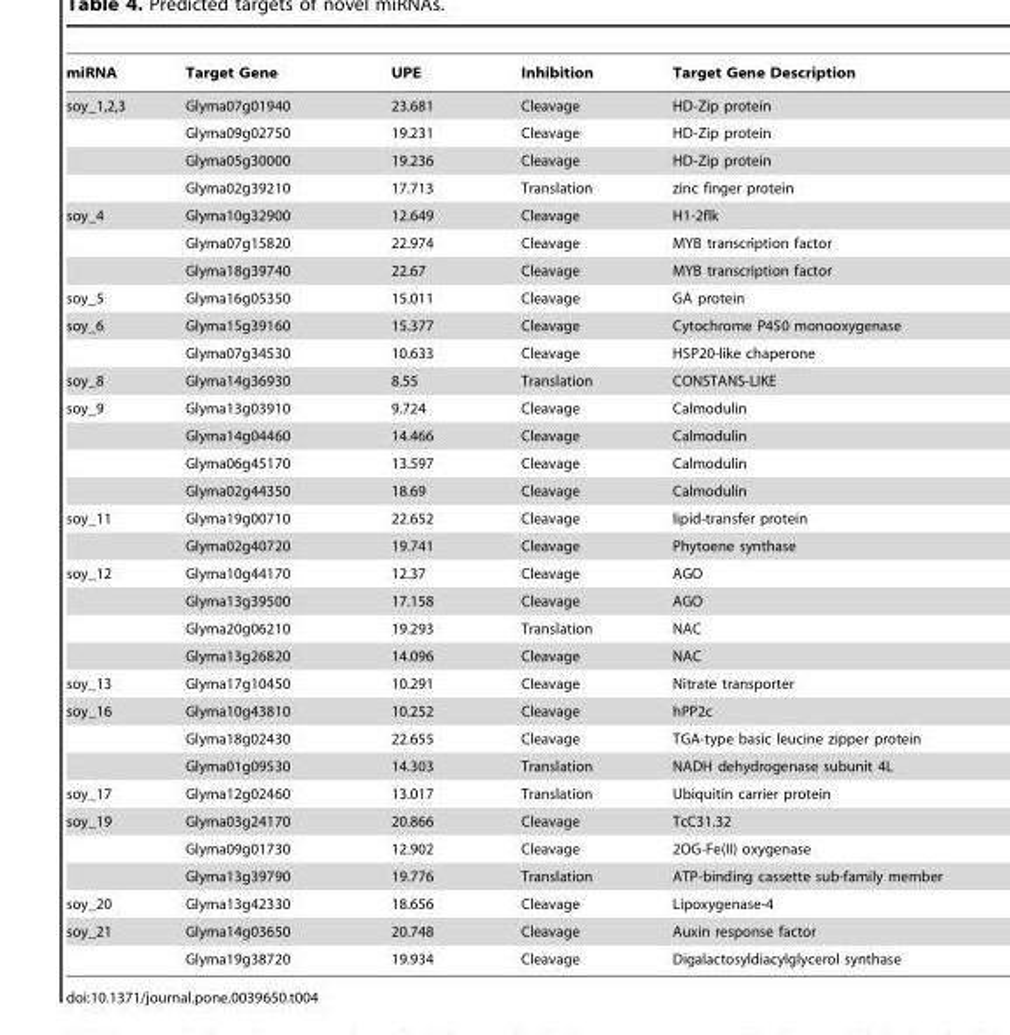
<table><thead><tr><td>miRNA</td><td>Target Gene</td><td>UPE</td><td>Inhibition</td><td>Target Gene Description</td></tr></thead><tbody><tr><td rowspan="4">soy_1,2,3</td><td>Glyma07g01940</td><td>23.681</td><td>Cleavage</td><td>HD-Zip protein</td></tr><tr><td>Glyma09g02750</td><td>19.231</td><td>Cleavage</td><td>HD-Zip protein</td></tr><tr><td>Glyma05g30000</td><td>19.236</td><td>Cleavage</td><td>HD-Zip protein</td></tr><tr><td>Glyma02g39210</td><td>17.713</td><td>Translation</td><td>zinc finger protein</td></tr><tr><td rowspan="3">soy_4</td><td>Glyma10g32900</td><td>12.649</td><td>Cleavage</td><td>H1-2flk</td></tr><tr><td>Glyma07g15820</td><td>22.974</td><td>Cleavage</td><td>MYB transcription factor</td></tr><tr><td>Glyma18g39740</td><td>22.67</td><td>Cleavage</td><td>MYB transcription factor</td></tr><tr><td>soy_5</td><td>Glyma16g05350</td><td>15.011</td><td>Cleavage</td><td>GA protein</td></tr><tr><td rowspan="2">soy_6</td><td>Glyma15g39160</td><td>15.377</td><td>Cleavage</td><td>Cytochrome P450 monooxygenase</td></tr><tr><td>Glyma07g34530</td><td>10.633</td><td>Cleavage</td><td>HSP20-like chaperone</td></tr><tr><td>soy_8</td><td>Glyma14g36930</td><td>8.55</td><td>Translation</td><td>CONSTANS-LIKE</td></tr><tr><td rowspan="4">soy_9</td><td>Glyma13g03910</td><td>9.724</td><td>Cleavage</td><td>Calmodulin</td></tr><tr><td>Glyma14g04460</td><td>14.466</td><td>Cleavage</td><td>Calmodulin</td></tr><tr><td>Glyma06g45170</td><td>13.597</td><td>Cleavage</td><td>Calmodulin</td></tr><tr><td>Glyma02g44350</td><td>18.69</td><td>Cleavage</td><td>Calmodulin</td></tr><tr><td rowspan="2">soy_11</td><td>Glyma19g00710</td><td>22.652</td><td>Cleavage</td><td>lipid-transfer protein</td></tr><tr><td>Glyma02g40720</td><td>19.741</td><td>Cleavage</td><td>Phytoene synthase</td></tr><tr><td rowspan="4">soy_12</td><td>Glyma10g44170</td><td>12.37</td><td>Cleavage</td><td>AGO</td></tr><tr><td>Glyma13g39500</td><td>17.158</td><td>Cleavage</td><td>AGO</td></tr><tr><td>Glyma20g06210</td><td>19.293</td><td>Translation</td><td>NAC</td></tr><tr><td>Glyma13g26820</td><td>14.096</td><td>Cleavage</td><td>NAC</td></tr><tr><td>soy_13</td><td>Glyma17g10450</td><td>10.291</td><td>Cleavage</td><td>Nitrate transporter</td></tr><tr><td rowspan="3">soy_16</td><td>Glyma10g43810</td><td>10.252</td><td>Cleavage</td><td>hPP2c</td></tr><tr><td>Glyma18g02430</td><td>22.655</td><td>Cleavage</td><td>TGA-type basic leucine zipper protein</td></tr><tr><td>Glyma01g09530</td><td>14.303</td><td>Translation</td><td>NADH dehydrogenase subunit 4L</td></tr><tr><td>soy_17</td><td>Glyma12g02460</td><td>13.017</td><td>Translation</td><td>Ubiquitin carrier protein</td></tr><tr><td rowspan="3">soy_19</td><td>Glyma03g24170</td><td>20.866</td><td>Cleavage</td><td>TcC31.32</td></tr><tr><td>Glyma09g01730</td><td>12.902</td><td>Cleavage</td><td>2OG-Fe(II) oxygenase</td></tr><tr><td>Glyma13g39790</td><td>19.776</td><td>Translation</td><td>ATP-binding cassette sub-family member</td></tr><tr><td>soy_20</td><td>Glyma13g42330</td><td>18.656</td><td>Cleavage</td><td>Lipoxygenase-4</td></tr><tr><td rowspan="2">soy_21</td><td>Glyma14g03650</td><td>20.748</td><td>Cleavage</td><td>Auxin response factor</td></tr><tr><td>Glyma19g38720</td><td>19.934</td><td>Cleavage</td><td>Digalactosyldiacylglycerol synthase</td></tr></tbody></table>